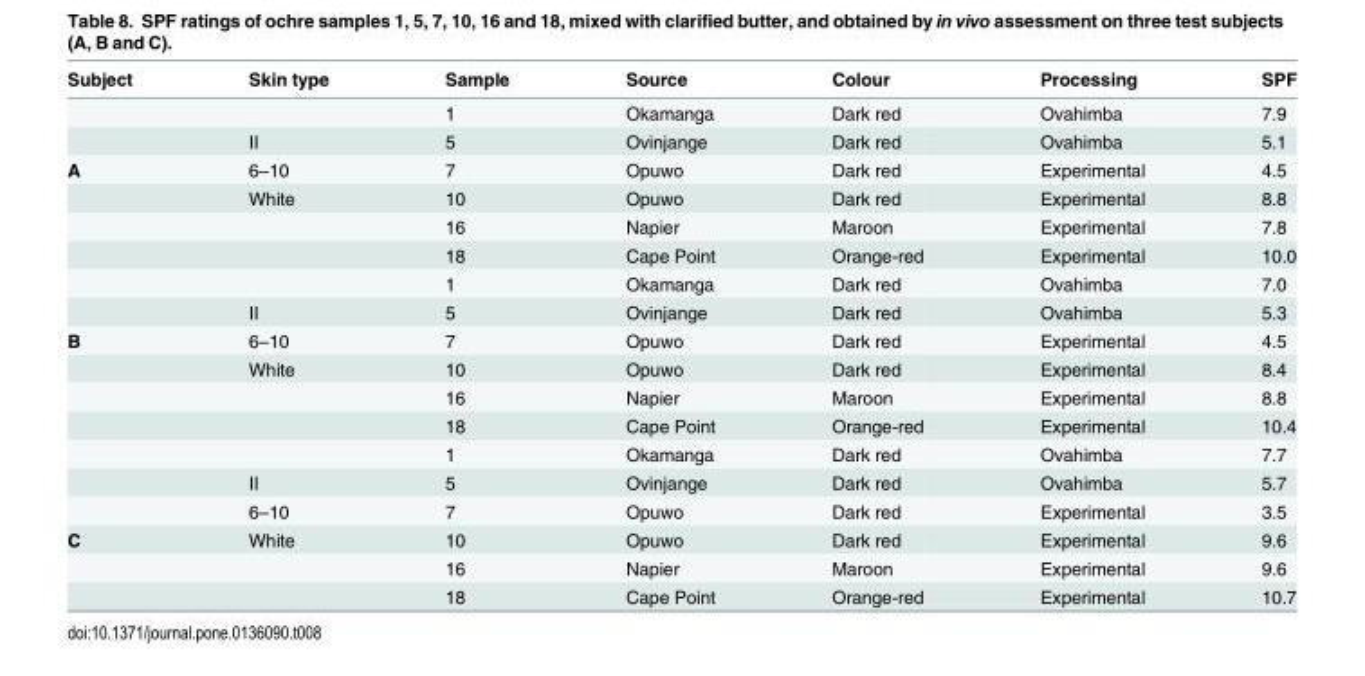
<table><thead><tr><td>Subject</td><td>Skin type</td><td>Sample</td><td>Source</td><td>Colour</td><td>Processing</td><td>SPF</td></tr></thead><tbody><tr><td></td><td></td><td>1</td><td>Okamanga</td><td>Dark red</td><td>Ovahimba</td><td>7.9</td></tr><tr><td></td><td>II</td><td>5</td><td>Ovinjange</td><td>Dark red</td><td>Ovahimba</td><td>5.1</td></tr><tr><td rowspan="6">A</td><td>6–10</td><td>7</td><td>Opuwo</td><td>Dark red</td><td>Experimental</td><td>4.5</td></tr><tr><td>White</td><td>10</td><td>Opuwo</td><td>Dark red</td><td>Experimental</td><td>8.8</td></tr><tr><td></td><td>16</td><td>Napier</td><td>Maroon</td><td>Experimental</td><td>7.8</td></tr><tr><td></td><td>18</td><td>Cape Point</td><td>Orange-red</td><td>Experimental</td><td>10.0</td></tr><tr><td></td><td>1</td><td>Okamanga</td><td>Dark red</td><td>Ovahimba</td><td>7.0</td></tr><tr><td>II</td><td>5</td><td>Ovinjange</td><td>Dark red</td><td>Ovahimba</td><td>5.3</td></tr><tr><td rowspan="7">B</td><td>6–10</td><td>7</td><td>Opuwo</td><td>Dark red</td><td>Experimental</td><td>4.5</td></tr><tr><td>White</td><td>10</td><td>Opuwo</td><td>Dark red</td><td>Experimental</td><td>8.4</td></tr><tr><td></td><td>16</td><td>Napier</td><td>Maroon</td><td>Experimental</td><td>8.8</td></tr><tr><td></td><td>18</td><td>Cape Point</td><td>Orange-red</td><td>Experimental</td><td>10.4</td></tr><tr><td></td><td>1</td><td>Okamanga</td><td>Dark red</td><td>Ovahimba</td><td>7.7</td></tr><tr><td>II</td><td>5</td><td>Ovinjange</td><td>Dark red</td><td>Ovahimba</td><td>5.7</td></tr><tr><td>6–10</td><td>7</td><td>Opuwo</td><td>Dark red</td><td>Experimental</td><td>3.5</td></tr><tr><td rowspan="3">C</td><td>White</td><td>10</td><td>Opuwo</td><td>Dark red</td><td>Experimental</td><td>9.6</td></tr><tr><td></td><td>16</td><td>Napier</td><td>Maroon</td><td>Experimental</td><td>9.6</td></tr><tr><td></td><td>18</td><td>Cape Point</td><td>Orange-red</td><td>Experimental</td><td>10.7</td></tr></tbody></table>